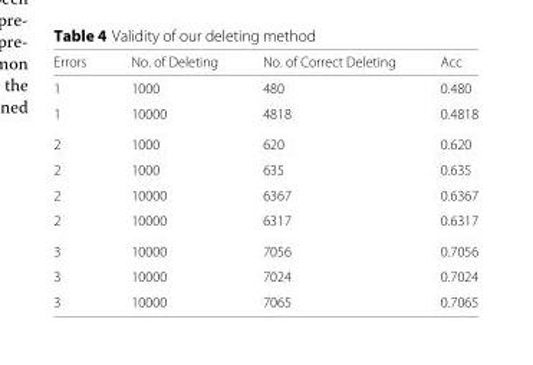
<table><thead><tr><td>Errors</td><td>No. of Deleting</td><td>No. of Correct Deleting</td><td>Acc</td></tr></thead><tbody><tr><td>1</td><td>1000</td><td>480</td><td>0.480</td></tr><tr><td>1</td><td>10000</td><td>4818</td><td>0.4818</td></tr><tr><td>2</td><td>1000</td><td>620</td><td>0.620</td></tr><tr><td>2</td><td>1000</td><td>635</td><td>0.635</td></tr><tr><td>2</td><td>10000</td><td>6367</td><td>0.6367</td></tr><tr><td>2</td><td>10000</td><td>6317</td><td>0.6317</td></tr><tr><td>3</td><td>10000</td><td>7056</td><td>0.7056</td></tr><tr><td>3</td><td>10000</td><td>7024</td><td>0.7024</td></tr><tr><td>3</td><td>10000</td><td>7065</td><td>0.7065</td></tr></tbody></table>